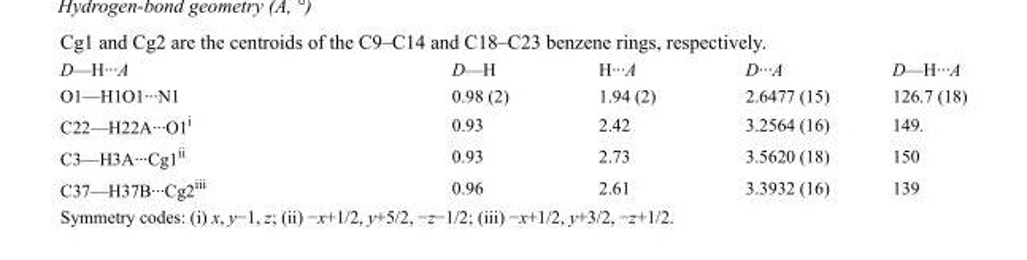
<table><tbody><tr><td>D—H···A</td><td>D—H</td><td>H···A</td><td>D···A</td><td>D—H···A</td></tr><tr><td>O1—H1O1···N1</td><td>0.98 (2)</td><td>1.94 (2)</td><td>2.6477 (15)</td><td>126.7 (18)</td></tr><tr><td>C22—H22A···O1<sup>i</sup></td><td>0.93</td><td>2.42</td><td>3.2564 (16)</td><td>149.</td></tr><tr><td>C3—H3A···Cg1<sup>ii</sup></td><td>0.93</td><td>2.73</td><td>3.5620 (18)</td><td>150</td></tr><tr><td>C37—H37B···Cg2<sup>iii</sup></td><td>0.96</td><td>2.61</td><td>3.3932 (16)</td><td>139</td></tr></tbody></table>